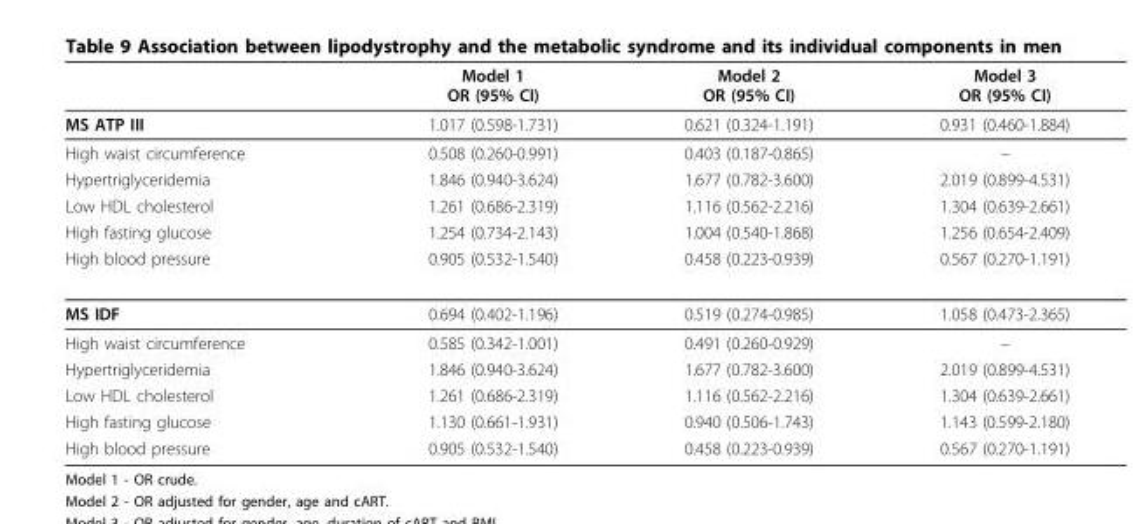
<table><thead><tr><td></td><td>Model 1 OR (95% CI)</td><td>Model 2 OR (95% CI)</td><td>Model 3 OR (95% CI)</td></tr></thead><tbody><tr><td>MS ATP III</td><td>1.017 (0.598-1.731)</td><td>0.621 (0.324-1.191)</td><td>0.931 (0.460-1.884)</td></tr><tr><td>High waist circumference</td><td>0.508 (0.260-0.991)</td><td>0.403 (0.187-0.865)</td><td>–</td></tr><tr><td>Hypertriglyceridemia</td><td>1.846 (0.940-3.624)</td><td>1.677 (0.782-3.600)</td><td>2.019 (0.899-4.531)</td></tr><tr><td>Low HDL cholesterol</td><td>1.261 (0.686-2.319)</td><td>1.116 (0.562-2.216)</td><td>1.304 (0.639-2.661)</td></tr><tr><td>High fasting glucose</td><td>1.254 (0.734-2.143)</td><td>1.004 (0.540-1.868)</td><td>1.256 (0.654-2.409)</td></tr><tr><td>High blood pressure</td><td>0.905 (0.532-1.540)</td><td>0.458 (0.223-0.939)</td><td>0.567 (0.270-1.191)</td></tr><tr><td>MS IDF</td><td>0.694 (0.402-1.196)</td><td>0.519 (0.274-0.985)</td><td>1.058 (0.473-2.365)</td></tr><tr><td>High waist circumference</td><td>0.585 (0.342-1.001)</td><td>0.491 (0.260-0.929)</td><td>–</td></tr><tr><td>Hypertriglyceridemia</td><td>1.846 (0.940-3.624)</td><td>1.677 (0.782-3.600)</td><td>2.019 (0.899-4.531)</td></tr><tr><td>Low HDL cholesterol</td><td>1.261 (0.686-2.319)</td><td>1.116 (0.562-2.216)</td><td>1.304 (0.639-2.661)</td></tr><tr><td>High fasting glucose</td><td>1.130 (0.661-1.931)</td><td>0.940 (0.506-1.743)</td><td>1.143 (0.599-2.180)</td></tr><tr><td>High blood pressure</td><td>0.905 (0.532-1.540)</td><td>0.458 (0.223-0.939)</td><td>0.567 (0.270-1.191)</td></tr></tbody></table>